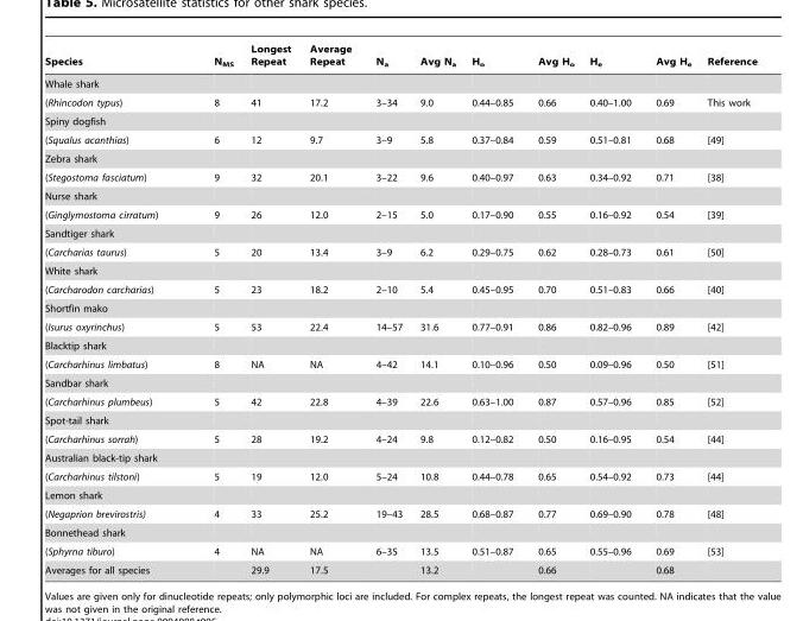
<table><thead><tr><td>Species</td><td>N<sub>MS</sub></td><td>Longest Repeat</td><td>Average Repeat</td><td>N<sub>a</sub></td><td>Avg N<sub>a</sub></td><td>H<sub>o</sub></td><td>Avg H<sub>o</sub></td><td>H<sub>e</sub></td><td>Avg H<sub>e</sub></td><td>Reference</td></tr></thead><tbody><tr><td colspan="11">Whale shark</td></tr><tr><td>(Rhincodon typus)</td><td>8</td><td>41</td><td>17.2</td><td>3–34</td><td>9.0</td><td>0.44–0.85</td><td>0.66</td><td>0.40–1.00</td><td>0.69</td><td>This work</td></tr><tr><td colspan="11">Spiny dogfish</td></tr><tr><td>(Squalus acanthias)</td><td>6</td><td>12</td><td>9.7</td><td>3–9</td><td>5.8</td><td>0.37–0.84</td><td>0.59</td><td>0.51–0.81</td><td>0.68</td><td>[49]</td></tr><tr><td colspan="11">Zebra shark</td></tr><tr><td>(Stegostoma fasciatum)</td><td>9</td><td>32</td><td>20.1</td><td>3–22</td><td>9.6</td><td>0.40–0.97</td><td>0.63</td><td>0.34–0.92</td><td>0.71</td><td>[38]</td></tr><tr><td colspan="11">Nurse shark</td></tr><tr><td>(Ginglymostoma cirratum)</td><td>9</td><td>26</td><td>12.0</td><td>2–15</td><td>5.0</td><td>0.17–0.90</td><td>0.55</td><td>0.16–0.92</td><td>0.54</td><td>[39]</td></tr><tr><td colspan="11">Sandtiger shark</td></tr><tr><td>(Carcharias taurus)</td><td>5</td><td>20</td><td>13.4</td><td>3–9</td><td>6.2</td><td>0.29–0.75</td><td>0.62</td><td>0.28–0.73</td><td>0.61</td><td>[50]</td></tr><tr><td colspan="11">White shark</td></tr><tr><td>(Carcharodon carcharias)</td><td>5</td><td>23</td><td>18.2</td><td>2–10</td><td>5.4</td><td>0.45–0.95</td><td>0.70</td><td>0.51–0.83</td><td>0.66</td><td>[40]</td></tr><tr><td colspan="11">Shortfin mako</td></tr><tr><td>(Isurus oxyrinchus)</td><td>5</td><td>53</td><td>22.4</td><td>14–57</td><td>31.6</td><td>0.77–0.91</td><td>0.86</td><td>0.82–0.96</td><td>0.89</td><td>[42]</td></tr><tr><td colspan="11">Blacktip shark</td></tr><tr><td>(Carcharhinus limbatus)</td><td>8</td><td>NA</td><td>NA</td><td>4–42</td><td>14.1</td><td>0.10–0.96</td><td>0.50</td><td>0.09–0.96</td><td>0.50</td><td>[51]</td></tr><tr><td colspan="11">Sandbar shark</td></tr><tr><td>(Carcharhinus plumbeus)</td><td>5</td><td>42</td><td>22.8</td><td>4–39</td><td>22.6</td><td>0.63–1.00</td><td>0.87</td><td>0.57–0.96</td><td>0.85</td><td>[52]</td></tr><tr><td colspan="11">Spot-tail shark</td></tr><tr><td>(Carcharhinus sorrah)</td><td>5</td><td>28</td><td>19.2</td><td>4–24</td><td>9.8</td><td>0.12–0.82</td><td>0.50</td><td>0.16–0.95</td><td>0.54</td><td>[44]</td></tr><tr><td colspan="11">Australian black-tip shark</td></tr><tr><td>(Carcharhinus tilstoni)</td><td>5</td><td>19</td><td>12.0</td><td>5–24</td><td>10.8</td><td>0.44–0.78</td><td>0.65</td><td>0.54–0.92</td><td>0.73</td><td>[44]</td></tr><tr><td colspan="11">Lemon shark</td></tr><tr><td>(Negaprion brevirostris)</td><td>4</td><td>33</td><td>25.2</td><td>19–43</td><td>28.5</td><td>0.68–0.87</td><td>0.77</td><td>0.69–0.90</td><td>0.78</td><td>[48]</td></tr><tr><td colspan="11">Bonnethead shark</td></tr><tr><td>(Sphyrna tiburo)</td><td>4</td><td>NA</td><td>NA</td><td>6–35</td><td>13.5</td><td>0.51–0.87</td><td>0.65</td><td>0.55–0.96</td><td>0.69</td><td>[53]</td></tr><tr><td>Averages for all species</td><td></td><td>29.9</td><td>17.5</td><td></td><td>13.2</td><td></td><td>0.66</td><td></td><td>0.68</td><td></td></tr></tbody></table>